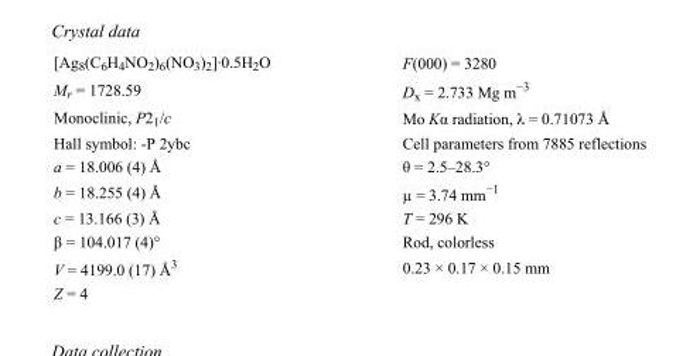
<table><tbody><tr><td>[Ag<sub>8</sub>(C<sub>6</sub>H<sub>4</sub>NO<sub>2</sub>)<sub>6</sub>(NO<sub>3</sub>)<sub>2</sub>]·0.5H<sub>2</sub>O</td><td>F(000) = 3280</td></tr><tr><td>M<sub>r</sub> = 1728.59</td><td>D<sub>x</sub> = 2.733 Mg m<sup>−3</sup></td></tr><tr><td>Monoclinic, P2<sub>1</sub>/c</td><td>Mo Kα radiation, λ = 0.71073 Å</td></tr><tr><td>Hall symbol: -P 2ybc</td><td>Cell parameters from 7885 reflections</td></tr><tr><td>a = 18.006 (4) Å</td><td>θ = 2.5–28.3°</td></tr><tr><td>b = 18.255 (4) Å</td><td>µ = 3.74 mm<sup>−1</sup></td></tr><tr><td>c = 13.166 (3) Å</td><td>T = 296 K</td></tr><tr><td>β = 104.017 (4)°</td><td>Rod, colorless</td></tr><tr><td>V = 4199.0 (17) Å<sup>3</sup></td><td>0.23 × 0.17 × 0.15 mm</td></tr><tr><td>Z = 4</td><td></td></tr></tbody></table>